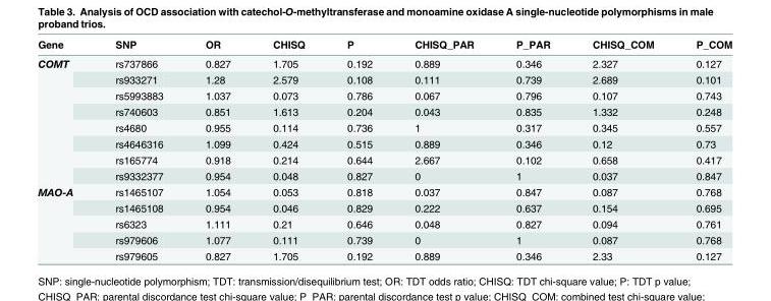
<table><thead><tr><td>Gene</td><td>SNP</td><td>OR</td><td>CHISQ</td><td>P</td><td>CHISQ_PAR</td><td>P_PAR</td><td>CHISQ_COM</td><td>P_COM</td></tr></thead><tbody><tr><td rowspan="8">COMT</td><td>rs737866</td><td>0.827</td><td>1.705</td><td>0.192</td><td>0.889</td><td>0.346</td><td>2.327</td><td>0.127</td></tr><tr><td>rs933271</td><td>1.28</td><td>2.579</td><td>0.108</td><td>0.111</td><td>0.739</td><td>2.689</td><td>0.101</td></tr><tr><td>rs5993883</td><td>1.037</td><td>0.073</td><td>0.786</td><td>0.067</td><td>0.796</td><td>0.107</td><td>0.743</td></tr><tr><td>rs740603</td><td>0.851</td><td>1.613</td><td>0.204</td><td>0.043</td><td>0.835</td><td>1.332</td><td>0.248</td></tr><tr><td>rs4680</td><td>0.955</td><td>0.114</td><td>0.736</td><td>1</td><td>0.317</td><td>0.345</td><td>0.557</td></tr><tr><td>rs4646316</td><td>1.099</td><td>0.424</td><td>0.515</td><td>0.889</td><td>0.346</td><td>0.12</td><td>0.73</td></tr><tr><td>rs165774</td><td>0.918</td><td>0.214</td><td>0.644</td><td>2.667</td><td>0.102</td><td>0.658</td><td>0.417</td></tr><tr><td>rs9332377</td><td>0.954</td><td>0.048</td><td>0.827</td><td>0</td><td>1</td><td>0.037</td><td>0.847</td></tr><tr><td rowspan="5">MAO-A</td><td>rs1465107</td><td>1.054</td><td>0.053</td><td>0.818</td><td>0.037</td><td>0.847</td><td>0.087</td><td>0.768</td></tr><tr><td>rs1465108</td><td>0.954</td><td>0.046</td><td>0.829</td><td>0.222</td><td>0.637</td><td>0.154</td><td>0.695</td></tr><tr><td>rs6323</td><td>1.111</td><td>0.21</td><td>0.646</td><td>0.048</td><td>0.827</td><td>0.094</td><td>0.761</td></tr><tr><td>rs979606</td><td>1.077</td><td>0.111</td><td>0.739</td><td>0</td><td>1</td><td>0.087</td><td>0.768</td></tr><tr><td>rs979605</td><td>0.827</td><td>1.705</td><td>0.192</td><td>0.889</td><td>0.346</td><td>2.33</td><td>0.127</td></tr></tbody></table>